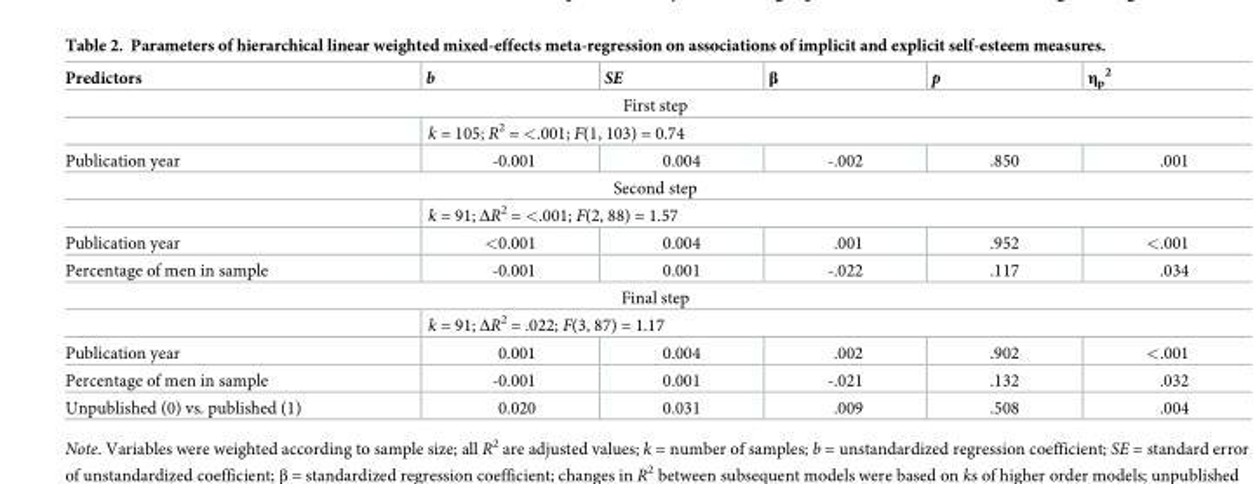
<table><thead><tr><td>Predictors</td><td>b</td><td>SE</td><td>β</td><td>p</td><td>η<sub>p</sub> <sup>2</sup></td></tr></thead><tbody><tr><td colspan="6">First step</td></tr><tr><td></td><td colspan="5">k = 105; R<sup>2</sup> = &lt;.001; F(1, 103) = 0.74</td></tr><tr><td>Publication year</td><td>-0.001</td><td>0.004</td><td>-.002</td><td>.850</td><td>.001</td></tr><tr><td colspan="6">Second step</td></tr><tr><td></td><td colspan="5">k = 91; ΔR<sup>2</sup> = &lt;.001; F(2, 88) = 1.57</td></tr><tr><td>Publication year</td><td>&lt;0.001</td><td>0.004</td><td>.001</td><td>.952</td><td>&lt;.001</td></tr><tr><td>Percentage of men in sample</td><td>-0.001</td><td>0.001</td><td>-.022</td><td>.117</td><td>.034</td></tr><tr><td colspan="6">Final step</td></tr><tr><td></td><td colspan="5">k = 91; ΔR<sup>2</sup> = .022; F(3, 87) = 1.17</td></tr><tr><td>Publication year</td><td>0.001</td><td>0.004</td><td>.002</td><td>.902</td><td>&lt;.001</td></tr><tr><td>Percentage of men in sample</td><td>-0.001</td><td>0.001</td><td>-.021</td><td>.132</td><td>.032</td></tr><tr><td>Unpublished (0) vs. published (1)</td><td>0.020</td><td>0.031</td><td>.009</td><td>.508</td><td>.004</td></tr></tbody></table>